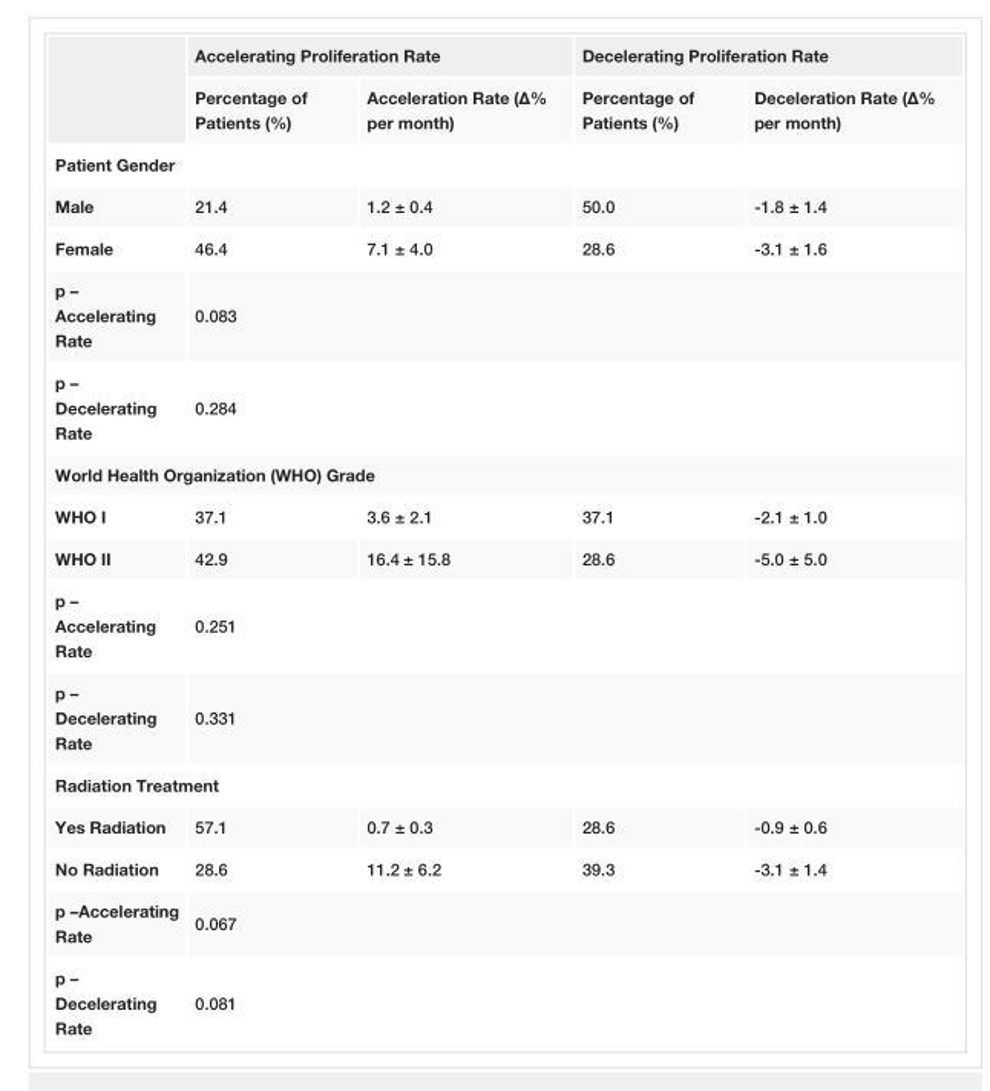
<table><thead><tr><td rowspan="2"></td><td colspan="2">Accelerating Proliferation Rate</td><td colspan="2">Decelerating Proliferation Rate</td></tr><tr><td>Percentage of Patients (%)</td><td>Acceleration Rate (Δ% per month)</td><td>Percentage of Patients (%)</td><td>Deceleration Rate (Δ% per month)</td></tr></thead><tbody><tr><td colspan="5">Patient Gender</td></tr><tr><td>Male</td><td>21.4</td><td>1.2 ± 0.4</td><td>50.0</td><td>-1.8 ± 1.4</td></tr><tr><td>Female</td><td>46.4</td><td>7.1 ± 4.0</td><td>28.6</td><td>-3.1 ± 1.6</td></tr><tr><td>p – Accelerating Rate</td><td colspan="4">0.083</td></tr><tr><td>p – Decelerating Rate</td><td colspan="4">0.284</td></tr><tr><td colspan="5">World Health Organization (WHO) Grade</td></tr><tr><td>WHO I</td><td>37.1</td><td>3.6 ± 2.1</td><td>37.1</td><td>-2.1 ± 1.0</td></tr><tr><td>WHO II</td><td>42.9</td><td>16.4 ± 15.8</td><td>28.6</td><td>-5.0 ± 5.0</td></tr><tr><td>p – Accelerating Rate</td><td colspan="4">0.251</td></tr><tr><td>p – Decelerating Rate</td><td colspan="4">0.331</td></tr><tr><td colspan="5">Radiation Treatment</td></tr><tr><td>Yes Radiation</td><td>57.1</td><td>0.7 ± 0.3</td><td>28.6</td><td>-0.9 ± 0.6</td></tr><tr><td>No Radiation</td><td>28.6</td><td>11.2 ± 6.2</td><td>39.3</td><td>-3.1 ± 1.4</td></tr><tr><td>p –Accelerating Rate</td><td colspan="4">0.067</td></tr><tr><td>p – Decelerating Rate</td><td colspan="4">0.081</td></tr></tbody></table>